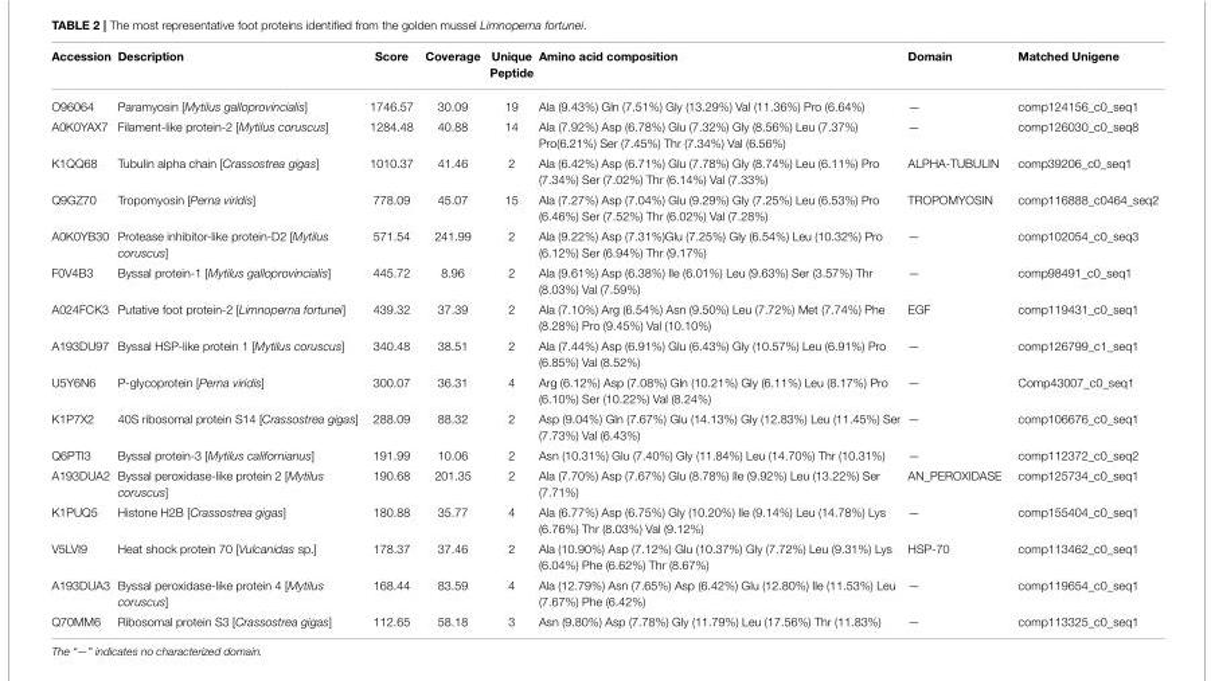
<table><thead><tr><td>Accession</td><td>Description</td><td>Score</td><td>Coverage</td><td>Unique Peptide</td><td>Amino acid composition</td><td>Domain</td><td>Matched Unigene</td></tr></thead><tbody><tr><td>O96064</td><td>Paramyosin [Mytilus galloprovincialis]</td><td>1746.57</td><td>30.09</td><td>19</td><td>Ala (9.43%) Gln (7.51%) Gly (13.29%) Val (11.36%) Pro (6.64%)</td><td>—</td><td>comp124156_c0_seq1</td></tr><tr><td>A0K0YAX7</td><td>Filament-like protein-2 [Mytilus coruscus]</td><td>1284.48</td><td>40.88</td><td>14</td><td>Ala (7.92%) Asp (6.78%) Glu (7.32%) Gly (8.56%) Leu (7.37%) Pro(6.21%) Ser (7.45%) Thr (7.34%) Val (6.56%)</td><td>—</td><td>comp126030_c0_seq8</td></tr><tr><td>K1QQ68</td><td>Tubulin alpha chain [Crassostrea gigas]</td><td>1010.37</td><td>41.46</td><td>2</td><td>Ala (6.42%) Asp (6.71%) Glu (7.78%) Gly (8.74%) Leu (6.11%) Pro (7.34%) Ser (7.02%) Thr (6.14%) Val (7.33%)</td><td>ALPHA-TUBULIN</td><td>comp39206_c0_seq1</td></tr><tr><td>Q9GZ70</td><td>Tropomyosin [Perna viridis]</td><td>778.09</td><td>45.07</td><td>15</td><td>Ala (7.27%) Asp (7.04%) Glu (9.29%) Gly (7.25%) Leu (6.53%) Pro (6.46%) Ser (7.52%) Thr (6.02%) Val (7.28%)</td><td>TROPOMYOSIN</td><td>comp116888_c0464_seq2</td></tr><tr><td>A0K0YB30</td><td>Protease inhibitor-like protein-D2 [Mytilus coruscus]</td><td>571.54</td><td>241.99</td><td>2</td><td>Ala (9.22%) Asp (7.31%)Glu (7.25%) Gly (6.54%) Leu (10.32%) Pro (6.12%) Ser (6.94%) Thr (9.17%)</td><td>—</td><td>comp102054_c0_seq3</td></tr><tr><td>F0V4B3</td><td>Byssal protein-1 [Mytilus galloprovincialis]</td><td>445.72</td><td>8.96</td><td>2</td><td>Ala (9.61%) Asp (6.38%) Ile (6.01%) Leu (9.63%) Ser (3.57%) Thr (8.03%) Val (7.59%)</td><td>—</td><td>comp98491_c0_seq1</td></tr><tr><td>A024FCK3</td><td>Putative foot protein-2 [Limnoperna fortunei]</td><td>439.32</td><td>37.39</td><td>2</td><td>Ala (7.10%) Arg (6.54%) Asn (9.50%) Leu (7.72%) Met (7.74%) Phe (8.28%) Pro (9.45%) Val (10.10%)</td><td>EGF</td><td>comp119431_c0_seq1</td></tr><tr><td>A193DU97</td><td>Byssal HSP-like protein 1 [Mytilus coruscus]</td><td>340.48</td><td>38.51</td><td>2</td><td>Ala (7.44%) Asp (6.91%) Glu (6.43%) Gly (10.57%) Leu (6.91%) Pro (6.85%) Val (8.52%)</td><td>—</td><td>comp126799_c1_seq1</td></tr><tr><td>U5Y6N6</td><td>P-glycoprotein [Perna viridis]</td><td>300.07</td><td>36.31</td><td>4</td><td>Arg (6.12%) Asp (7.08%) Gln (10.21%) Gly (6.11%) Leu (8.17%) Pro (6.10%) Ser (10.22%) Val (8.24%)</td><td>—</td><td>Comp43007_c0_seq1</td></tr><tr><td>K1P7X2</td><td>40S ribosomal protein S14 [Crassostrea gigas]</td><td>288.09</td><td>88.32</td><td>2</td><td>Asp (9.04%) Gln (7.67%) Glu (14.13%) Gly (12.83%) Leu (11.45%) Ser (7.73%) Val (6.43%)</td><td>—</td><td>comp106676_c0_seq1</td></tr><tr><td>Q6PTI3</td><td>Byssal protein-3 [Mytilus californianus]</td><td>191.99</td><td>10.06</td><td>2</td><td>Asn (10.31%) Glu (7.40%) Gly (11.84%) Leu (14.70%) Thr (10.31%)</td><td>—</td><td>comp112372_c0_seq2</td></tr><tr><td>A193DUA2</td><td>Byssal peroxidase-like protein 2 [Mytilus coruscus]</td><td>190.68</td><td>201.35</td><td>2</td><td>Ala (7.70%) Asp (7.67%) Glu (8.78%) Ile (9.92%) Leu (13.22%) Ser (7.71%)</td><td>AN_PEROXIDASE</td><td>comp125734_c0_seq1</td></tr><tr><td>K1PUQ5</td><td>Histone H2B [Crassostrea gigas]</td><td>180.88</td><td>35.77</td><td>4</td><td>Ala (6.77%) Asp (6.75%) Gly (10.20%) Ile (9.14%) Leu (14.78%) Lys (6.76%) Thr (8.03%) Val (9.12%)</td><td>—</td><td>comp155404_c0_seq1</td></tr><tr><td>V5LVI9</td><td>Heat shock protein 70 [Vulcanidas sp.]</td><td>178.37</td><td>37.46</td><td>2</td><td>Ala (10.90%) Asp (7.12%) Glu (10.37%) Gly (7.72%) Leu (9.31%) Lys (6.04%) Phe (6.62%) Thr (8.67%)</td><td>HSP-70</td><td>comp113462_c0_seq1</td></tr><tr><td>A193DUA3</td><td>Byssal peroxidase-like protein 4 [Mytilus coruscus]</td><td>168.44</td><td>83.59</td><td>4</td><td>Ala (12.79%) Asn (7.65%) Asp (6.42%) Glu (12.80%) Ile (11.53%) Leu (7.67%) Phe (6.42%)</td><td>—</td><td>comp119654_c0_seq1</td></tr><tr><td>Q70MM6</td><td>Ribosomal protein S3 [Crassostrea gigas]</td><td>112.65</td><td>58.18</td><td>3</td><td>Asn (9.80%) Asp (7.78%) Gly (11.79%) Leu (17.56%) Thr (11.83%)</td><td>—</td><td>comp113325_c0_seq1</td></tr></tbody></table>